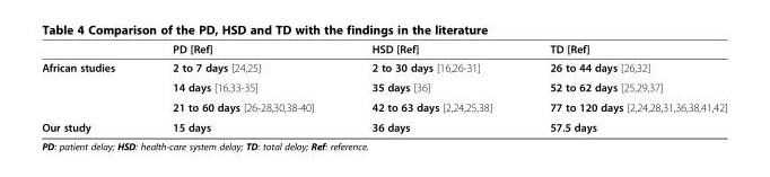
<table><thead><tr><td></td><td>PD [Ref]</td><td>HSD [Ref]</td><td>TD [Ref]</td></tr></thead><tbody><tr><td rowspan="3">African studies</td><td>2 to 7 days [24,25]</td><td>2 to 30 days [16,26-31]</td><td>26 to 44 days [26,32]</td></tr><tr><td>14 days [16,33-35]</td><td>35 days [36]</td><td>52 to 62 days [25,29,37]</td></tr><tr><td>21 to 60 days [26-28,30,38-40]</td><td>42 to 63 days [2,24,25,38]</td><td>77 to 120 days [2,24,28,31,36,38,41,42]</td></tr><tr><td>Our study</td><td>15 days</td><td>36 days</td><td>57.5 days</td></tr></tbody></table>